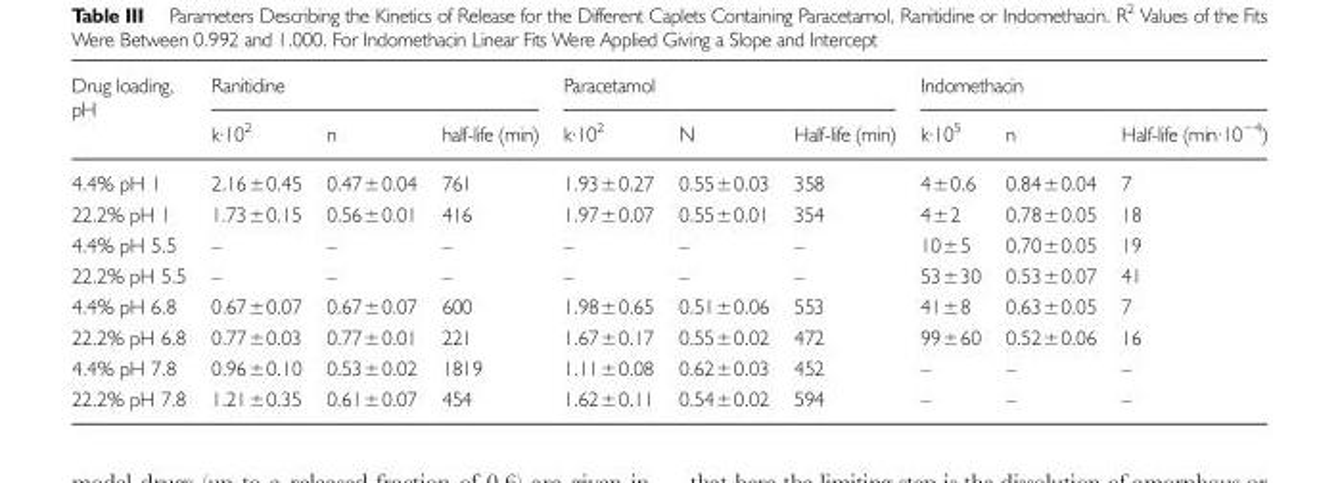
<table><thead><tr><td rowspan="2">Drug loading, pH</td><td colspan="3">Ranitidine</td><td colspan="3">Paracetamol</td><td colspan="3">Indomethacin</td></tr><tr><td>k∙10<sup>2</sup></td><td>n</td><td>half-life (min)</td><td>k∙10<sup>2</sup></td><td>N</td><td>Half-life (min)</td><td>k∙10<sup>5</sup></td><td>n</td><td>Half-life (min∙10<sup>−4</sup>)</td></tr></thead><tbody><tr><td>4.4% pH 1</td><td>2.16±0.45</td><td>0.47±0.04</td><td>761</td><td>1.93±0.27</td><td>0.55±0.03</td><td>358</td><td>4±0.6</td><td>0.84±0.04</td><td>7</td></tr><tr><td>22.2% pH 1</td><td>1.73±0.15</td><td>0.56±0.01</td><td>416</td><td>1.97±0.07</td><td>0.55±0.01</td><td>354</td><td>4±2</td><td>0.78±0.05</td><td>18</td></tr><tr><td>4.4% pH 5.5</td><td>–</td><td>–</td><td>–</td><td>–</td><td>–</td><td>–</td><td>10±5</td><td>0.70±0.05</td><td>19</td></tr><tr><td>22.2% pH 5.5</td><td>–</td><td>–</td><td>–</td><td>–</td><td>–</td><td>–</td><td>53±30</td><td>0.53±0.07</td><td>41</td></tr><tr><td>4.4% pH 6.8</td><td>0.67±0.07</td><td>0.67±0.07</td><td>600</td><td>1.98±0.65</td><td>0.51±0.06</td><td>553</td><td>41±8</td><td>0.63±0.05</td><td>7</td></tr><tr><td>22.2% pH 6.8</td><td>0.77±0.03</td><td>0.77±0.01</td><td>221</td><td>1.67±0.17</td><td>0.55±0.02</td><td>472</td><td>99±60</td><td>0.52±0.06</td><td>16</td></tr><tr><td>4.4% pH 7.8</td><td>0.96±0.10</td><td>0.53±0.02</td><td>1819</td><td>1.11±0.08</td><td>0.62±0.03</td><td>452</td><td>–</td><td>–</td><td>–</td></tr><tr><td>22.2% pH 7.8</td><td>1.21±0.35</td><td>0.61±0.07</td><td>454</td><td>1.62±0.11</td><td>0.54±0.02</td><td>594</td><td>–</td><td>–</td><td>–</td></tr></tbody></table>